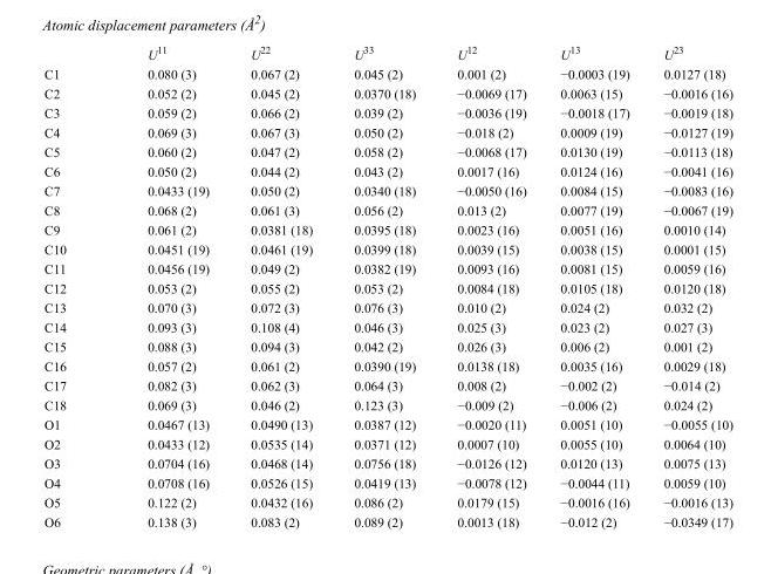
<table><thead><tr><td></td><td>U<sup>11</sup></td><td>U<sup>22</sup></td><td>U<sup>33</sup></td><td>U<sup>12</sup></td><td>U<sup>13</sup></td><td>U<sup>23</sup></td></tr></thead><tbody><tr><td>C1</td><td>0.080 (3)</td><td>0.067 (2)</td><td>0.045 (2)</td><td>0.001 (2)</td><td>−0.0003 (19)</td><td>0.0127 (18)</td></tr><tr><td>C2</td><td>0.052 (2)</td><td>0.045 (2)</td><td>0.0370 (18)</td><td>−0.0069 (17)</td><td>0.0063 (15)</td><td>−0.0016 (16)</td></tr><tr><td>C3</td><td>0.059 (2)</td><td>0.066 (2)</td><td>0.039 (2)</td><td>−0.0036 (19)</td><td>−0.0018 (17)</td><td>−0.0019 (18)</td></tr><tr><td>C4</td><td>0.069 (3)</td><td>0.067 (3)</td><td>0.050 (2)</td><td>−0.018 (2)</td><td>0.0009 (19)</td><td>−0.0127 (19)</td></tr><tr><td>C5</td><td>0.060 (2)</td><td>0.047 (2)</td><td>0.058 (2)</td><td>−0.0068 (17)</td><td>0.0130 (19)</td><td>−0.0113 (18)</td></tr><tr><td>C6</td><td>0.050 (2)</td><td>0.044 (2)</td><td>0.043 (2)</td><td>0.0017 (16)</td><td>0.0124 (16)</td><td>−0.0041 (16)</td></tr><tr><td>C7</td><td>0.0433 (19)</td><td>0.050 (2)</td><td>0.0340 (18)</td><td>−0.0050 (16)</td><td>0.0084 (15)</td><td>−0.0083 (16)</td></tr><tr><td>C8</td><td>0.068 (2)</td><td>0.061 (3)</td><td>0.056 (2)</td><td>0.013 (2)</td><td>0.0077 (19)</td><td>−0.0067 (19)</td></tr><tr><td>C9</td><td>0.061 (2)</td><td>0.0381 (18)</td><td>0.0395 (18)</td><td>0.0023 (16)</td><td>0.0051 (16)</td><td>0.0010 (14)</td></tr><tr><td>C10</td><td>0.0451 (19)</td><td>0.0461 (19)</td><td>0.0399 (18)</td><td>0.0039 (15)</td><td>0.0038 (15)</td><td>0.0001 (15)</td></tr><tr><td>C11</td><td>0.0456 (19)</td><td>0.049 (2)</td><td>0.0382 (19)</td><td>0.0093 (16)</td><td>0.0081 (15)</td><td>0.0059 (16)</td></tr><tr><td>C12</td><td>0.053 (2)</td><td>0.055 (2)</td><td>0.053 (2)</td><td>0.0084 (18)</td><td>0.0105 (18)</td><td>0.0120 (18)</td></tr><tr><td>C13</td><td>0.070 (3)</td><td>0.072 (3)</td><td>0.076 (3)</td><td>0.010 (2)</td><td>0.024 (2)</td><td>0.032 (2)</td></tr><tr><td>C14</td><td>0.093 (3)</td><td>0.108 (4)</td><td>0.046 (3)</td><td>0.025 (3)</td><td>0.023 (2)</td><td>0.027 (3)</td></tr><tr><td>C15</td><td>0.088 (3)</td><td>0.094 (3)</td><td>0.042 (2)</td><td>0.026 (3)</td><td>0.006 (2)</td><td>0.001 (2)</td></tr><tr><td>C16</td><td>0.057 (2)</td><td>0.061 (2)</td><td>0.0390 (19)</td><td>0.0138 (18)</td><td>0.0035 (16)</td><td>0.0029 (18)</td></tr><tr><td>C17</td><td>0.082 (3)</td><td>0.062 (3)</td><td>0.064 (3)</td><td>0.008 (2)</td><td>−0.002 (2)</td><td>−0.014 (2)</td></tr><tr><td>C18</td><td>0.069 (3)</td><td>0.046 (2)</td><td>0.123 (3)</td><td>−0.009 (2)</td><td>−0.006 (2)</td><td>0.024 (2)</td></tr><tr><td>O1</td><td>0.0467 (13)</td><td>0.0490 (13)</td><td>0.0387 (12)</td><td>−0.0020 (11)</td><td>0.0051 (10)</td><td>−0.0055 (10)</td></tr><tr><td>O2</td><td>0.0433 (12)</td><td>0.0535 (14)</td><td>0.0371 (12)</td><td>0.0007 (10)</td><td>0.0055 (10)</td><td>0.0064 (10)</td></tr><tr><td>O3</td><td>0.0704 (16)</td><td>0.0468 (14)</td><td>0.0756 (18)</td><td>−0.0126 (12)</td><td>0.0120 (13)</td><td>0.0075 (13)</td></tr><tr><td>O4</td><td>0.0708 (16)</td><td>0.0526 (15)</td><td>0.0419 (13)</td><td>−0.0078 (12)</td><td>−0.0044 (11)</td><td>0.0059 (10)</td></tr><tr><td>O5</td><td>0.122 (2)</td><td>0.0432 (16)</td><td>0.086 (2)</td><td>0.0179 (15)</td><td>−0.0016 (16)</td><td>−0.0016 (13)</td></tr><tr><td>O6</td><td>0.138 (3)</td><td>0.083 (2)</td><td>0.089 (2)</td><td>0.0013 (18)</td><td>−0.012 (2)</td><td>−0.0349 (17)</td></tr></tbody></table>